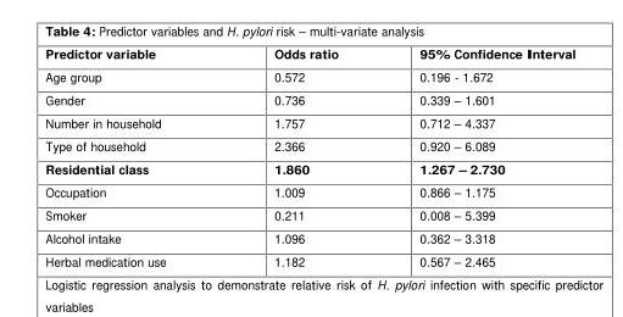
<table><thead><tr><td>Predictor variable</td><td>Odds ratio</td><td>95% Confidence Interval</td></tr></thead><tbody><tr><td>Age group</td><td>0.572</td><td>0.196 - 1.672</td></tr><tr><td>Gender</td><td>0.736</td><td>0.339 – 1.601</td></tr><tr><td>Number in household</td><td>1.757</td><td>0.712 – 4.337</td></tr><tr><td>Type of household</td><td>2.366</td><td>0.920 – 6.089</td></tr><tr><td>Residential class</td><td>1.860</td><td>1.267 – 2.730</td></tr><tr><td>Occupation</td><td>1.009</td><td>0.866 – 1.175</td></tr><tr><td>Smoker</td><td>0.211</td><td>0.008 – 5.399</td></tr><tr><td>Alcohol intake</td><td>1.096</td><td>0.362 – 3.318</td></tr><tr><td>Herbal medication use</td><td>1.182</td><td>0.567 – 2.465</td></tr></tbody></table>